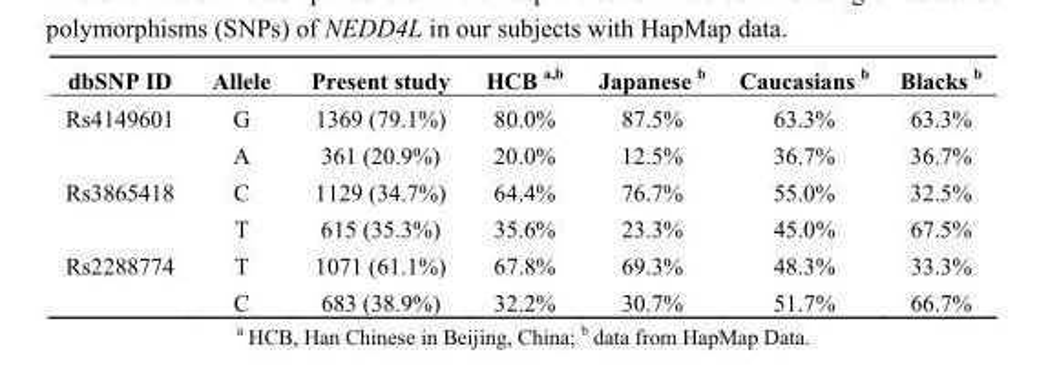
<table><thead><tr><td>dbSNP ID</td><td>Allele</td><td>Present study</td><td>HCB a,b</td><td>Japanese b</td><td>Caucasians b</td><td>Blacks b</td></tr></thead><tbody><tr><td rowspan="2">Rs4149601</td><td>G</td><td>1369 (79.1%)</td><td>80.0%</td><td>87.5%</td><td>63.3%</td><td>63.3%</td></tr><tr><td>A</td><td>361 (20.9%)</td><td>20.0%</td><td>12.5%</td><td>36.7%</td><td>36.7%</td></tr><tr><td rowspan="2">Rs3865418</td><td>C</td><td>1129 (34.7%)</td><td>64.4%</td><td>76.7%</td><td>55.0%</td><td>32.5%</td></tr><tr><td>T</td><td>615 (35.3%)</td><td>35.6%</td><td>23.3%</td><td>45.0%</td><td>67.5%</td></tr><tr><td rowspan="2">Rs2288774</td><td>T</td><td>1071 (61.1%)</td><td>67.8%</td><td>69.3%</td><td>48.3%</td><td>33.3%</td></tr><tr><td>C</td><td>683 (38.9%)</td><td>32.2%</td><td>30.7%</td><td>51.7%</td><td>66.7%</td></tr></tbody></table>